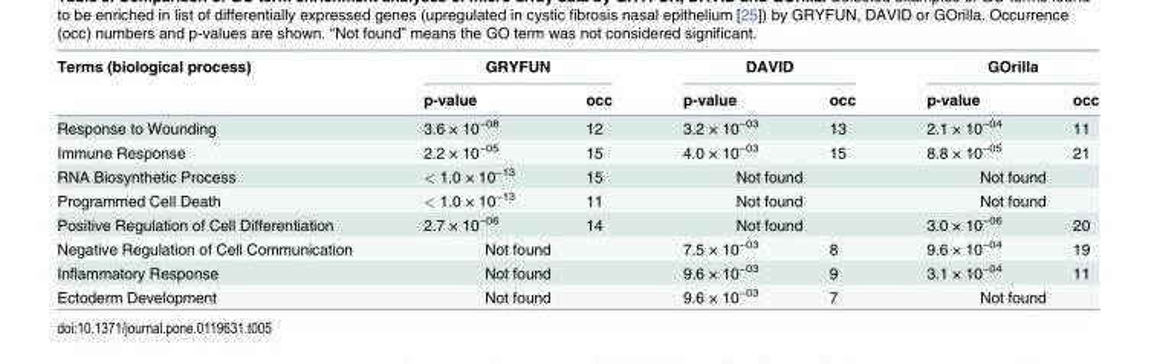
<table><thead><tr><td rowspan="2">Terms (biological process)</td><td colspan="2">GRYFUN</td><td colspan="2">DAVID</td><td colspan="2">GOrilla</td></tr><tr><td>p-value</td><td>occ</td><td>p-value</td><td>occ</td><td>p-value</td><td>occ</td></tr></thead><tbody><tr><td>Response to Wounding</td><td>3.6 × 10<sup>−08</sup></td><td>12</td><td>3.2 × 10<sup>−03</sup></td><td>13</td><td>2.1 × 10<sup>−04</sup></td><td>11</td></tr><tr><td>Immune Response</td><td>2.2 × 10<sup>−05</sup></td><td>15</td><td>4.0 × 10<sup>−03</sup></td><td>15</td><td>8.8 × 10<sup>−05</sup></td><td>21</td></tr><tr><td>RNA Biosynthetic Process</td><td>&lt; 1.0 × 10<sup>−13</sup></td><td>15</td><td colspan="2">Not found</td><td colspan="2">Not found</td></tr><tr><td>Programmed Cell Death</td><td>&lt; 1.0 × 10<sup>−13</sup></td><td>11</td><td colspan="2">Not found</td><td colspan="2">Not found</td></tr><tr><td>Positive Regulation of Cell Differentiation</td><td>2.7 × 10<sup>−06</sup></td><td>14</td><td colspan="2">Not found</td><td>3.0 × 10<sup>−06</sup></td><td>20</td></tr><tr><td>Negative Regulation of Cell Communication</td><td colspan="2">Not found</td><td>7.5 × 10<sup>−03</sup></td><td>8</td><td>9.6 × 10<sup>−04</sup></td><td>19</td></tr><tr><td>Inflammatory Response</td><td colspan="2">Not found</td><td>9.6 × 10<sup>−03</sup></td><td>9</td><td>3.1 × 10<sup>−04</sup></td><td>11</td></tr><tr><td>Ectoderm Development</td><td colspan="2">Not found</td><td>9.6 × 10<sup>−03</sup></td><td>7</td><td colspan="2">Not found</td></tr></tbody></table>